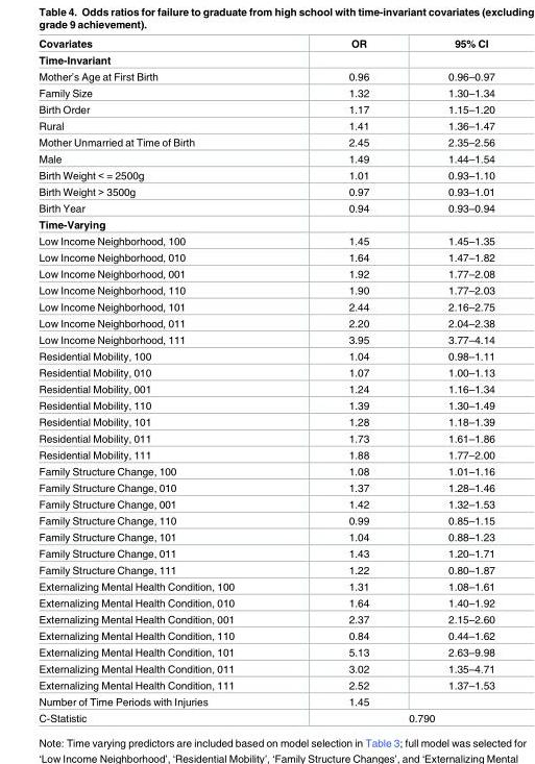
<table><thead><tr><td>Covariates</td><td>OR</td><td>95% CI</td></tr></thead><tbody><tr><td colspan="3">Time-Invariant</td></tr><tr><td>Mother’s Age at First Birth</td><td>0.96</td><td>0.96–0.97</td></tr><tr><td>Family Size</td><td>1.32</td><td>1.30–1.34</td></tr><tr><td>Birth Order</td><td>1.17</td><td>1.15–1.20</td></tr><tr><td>Rural</td><td>1.41</td><td>1.36–1.47</td></tr><tr><td>Mother Unmarried at Time of Birth</td><td>2.45</td><td>2.35–2.56</td></tr><tr><td>Male</td><td>1.49</td><td>1.44–1.54</td></tr><tr><td>Birth Weight &lt; = 2500g</td><td>1.01</td><td>0.93–1.10</td></tr><tr><td>Birth Weight &gt; 3500g</td><td>0.97</td><td>0.93–1.01</td></tr><tr><td>Birth Year</td><td>0.94</td><td>0.93–0.94</td></tr><tr><td colspan="3">Time-Varying</td></tr><tr><td>Low Income Neighborhood, 100</td><td>1.45</td><td>1.45–1.35</td></tr><tr><td>Low Income Neighborhood, 010</td><td>1.64</td><td>1.47–1.82</td></tr><tr><td>Low Income Neighborhood, 001</td><td>1.92</td><td>1.77–2.08</td></tr><tr><td>Low Income Neighborhood, 110</td><td>1.90</td><td>1.77–2.03</td></tr><tr><td>Low Income Neighborhood, 101</td><td>2.44</td><td>2.16–2.75</td></tr><tr><td>Low Income Neighborhood, 011</td><td>2.20</td><td>2.04–2.38</td></tr><tr><td>Low Income Neighborhood, 111</td><td>3.95</td><td>3.77–4.14</td></tr><tr><td>Residential Mobility, 100</td><td>1.04</td><td>0.98–1.11</td></tr><tr><td>Residential Mobility, 010</td><td>1.07</td><td>1.00–1.13</td></tr><tr><td>Residential Mobility, 001</td><td>1.24</td><td>1.16–1.34</td></tr><tr><td>Residential Mobility, 110</td><td>1.39</td><td>1.30–1.49</td></tr><tr><td>Residential Mobility, 101</td><td>1.28</td><td>1.18–1.39</td></tr><tr><td>Residential Mobility, 011</td><td>1.73</td><td>1.61–1.86</td></tr><tr><td>Residential Mobility, 111</td><td>1.88</td><td>1.77–2.00</td></tr><tr><td>Family Structure Change, 100</td><td>1.08</td><td>1.01–1.16</td></tr><tr><td>Family Structure Change, 010</td><td>1.37</td><td>1.28–1.46</td></tr><tr><td>Family Structure Change, 001</td><td>1.42</td><td>1.32–1.53</td></tr><tr><td>Family Structure Change, 110</td><td>0.99</td><td>0.85–1.15</td></tr><tr><td>Family Structure Change, 101</td><td>1.04</td><td>0.88–1.23</td></tr><tr><td>Family Structure Change, 011</td><td>1.43</td><td>1.20–1.71</td></tr><tr><td>Family Structure Change, 111</td><td>1.22</td><td>0.80–1.87</td></tr><tr><td>Externalizing Mental Health Condition, 100</td><td>1.31</td><td>1.08–1.61</td></tr><tr><td>Externalizing Mental Health Condition, 010</td><td>1.64</td><td>1.40–1.92</td></tr><tr><td>Externalizing Mental Health Condition, 001</td><td>2.37</td><td>2.15–2.60</td></tr><tr><td>Externalizing Mental Health Condition, 110</td><td>0.84</td><td>0.44–1.62</td></tr><tr><td>Externalizing Mental Health Condition, 101</td><td>5.13</td><td>2.63–9.98</td></tr><tr><td>Externalizing Mental Health Condition, 011</td><td>3.02</td><td>1.35–4.71</td></tr><tr><td>Externalizing Mental Health Condition, 111</td><td>2.52</td><td>1.37–1.53</td></tr><tr><td>Number of Time Periods with Injuries</td><td>1.45</td><td></td></tr><tr><td>C-Statistic</td><td colspan="2">0.790</td></tr></tbody></table>